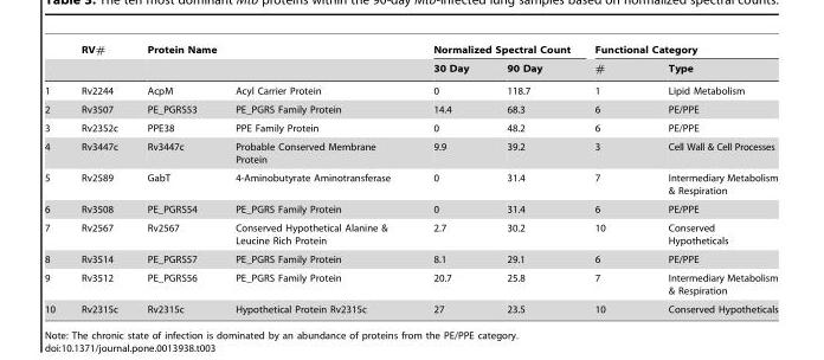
<table><thead><tr><td rowspan="2"></td><td rowspan="2">RV#</td><td colspan="2">Protein Name</td><td colspan="2">Normalized Spectral Count</td><td colspan="2">Functional Category</td></tr><tr><td></td><td></td><td>30 Day</td><td>90 Day</td><td>#</td><td>Type</td></tr></thead><tbody><tr><td>1</td><td>Rv2244</td><td>AcpM</td><td>Acyl Carrier Protein</td><td>0</td><td>118.7</td><td>1</td><td>Lipid Metabolism</td></tr><tr><td>2</td><td>Rv3507</td><td>PE_PGRS53</td><td>PE_PGRS Family Protein</td><td>14.4</td><td>68.3</td><td>6</td><td>PE/PPE</td></tr><tr><td>3</td><td>Rv2352c</td><td>PPE38</td><td>PPE Family Protein</td><td>0</td><td>48.2</td><td>6</td><td>PE/PPE</td></tr><tr><td>4</td><td>Rv3447c</td><td>Rv3447c</td><td>Probable Conserved Membrane Protein</td><td>9.9</td><td>39.2</td><td>3</td><td>Cell Wall &amp; Cell Processes</td></tr><tr><td>5</td><td>Rv2589</td><td>GabT</td><td>4-Aminobutyrate Aminotransferase</td><td>0</td><td>31.4</td><td>7</td><td>Intermediary Metabolism &amp; Respiration</td></tr><tr><td>6</td><td>Rv3508</td><td>PE_PGRS54</td><td>PE_PGRS Family Protein</td><td>0</td><td>31.4</td><td>6</td><td>PE/PPE</td></tr><tr><td>7</td><td>Rv2567</td><td>Rv2567</td><td>Conserved Hypothetical Alanine &amp; Leucine Rich Protein</td><td>2.7</td><td>30.2</td><td>10</td><td>Conserved Hypotheticals</td></tr><tr><td>8</td><td>Rv3514</td><td>PE_PGRS57</td><td>PE_PGRS Family Protein</td><td>8.1</td><td>29.1</td><td>6</td><td>PE/PPE</td></tr><tr><td>9</td><td>Rv3512</td><td>PE_PGRS56</td><td>PE_PGRS Family Protein</td><td>20.7</td><td>25.8</td><td>7</td><td>Intermediary Metabolism &amp; Respiration</td></tr><tr><td>10</td><td>Rv2315c</td><td>Rv2315c</td><td>Hypothetical Protein Rv2315c</td><td>27</td><td>23.5</td><td>10</td><td>Conserved Hypotheticals</td></tr></tbody></table>